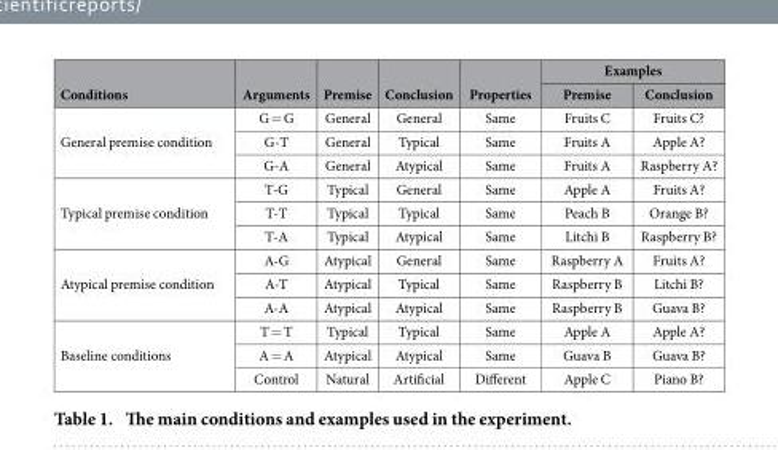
<table><thead><tr><td rowspan="2">Conditions</td><td rowspan="2">Arguments</td><td rowspan="2">Premise</td><td rowspan="2">Conclusion</td><td rowspan="2">Properties</td><td colspan="2">Examples</td></tr><tr><td>Premise</td><td>Conclusion</td></tr></thead><tbody><tr><td rowspan="3">General premise condition</td><td>G = G</td><td>General</td><td>General</td><td>Same</td><td>Fruits C</td><td>Fruits C?</td></tr><tr><td>G-T</td><td>General</td><td>Typical</td><td>Same</td><td>Fruits A</td><td>Apple A?</td></tr><tr><td>G-A</td><td>General</td><td>Atypical</td><td>Same</td><td>Fruits A</td><td>Raspberry A?</td></tr><tr><td rowspan="3">Typical premise condition</td><td>T-G</td><td>Typical</td><td>General</td><td>Same</td><td>Apple A</td><td>Fruits A?</td></tr><tr><td>T-T</td><td>Typical</td><td>Typical</td><td>Same</td><td>Peach B</td><td>Orange B?</td></tr><tr><td>T-A</td><td>Typical</td><td>Atypical</td><td>Same</td><td>Litchi B</td><td>Raspberry B?</td></tr><tr><td rowspan="3">Atypical premise condition</td><td>A-G</td><td>Atypical</td><td>General</td><td>Same</td><td>Raspberry A</td><td>Fruits A?</td></tr><tr><td>A-T</td><td>Atypical</td><td>Typical</td><td>Same</td><td>Raspberry B</td><td>Litchi B?</td></tr><tr><td>A-A</td><td>Atypical</td><td>Atypical</td><td>Same</td><td>Raspberry B</td><td>Guava B?</td></tr><tr><td rowspan="3">Baseline conditions</td><td>T = T</td><td>Typical</td><td>Typical</td><td>Same</td><td>Apple A</td><td>Apple A?</td></tr><tr><td>A = A</td><td>Atypical</td><td>Atypical</td><td>Same</td><td>Guava B</td><td>Guava B?</td></tr><tr><td>Control</td><td>Natural</td><td>Artificial</td><td>Different</td><td>Apple C</td><td>Piano B?</td></tr></tbody></table>